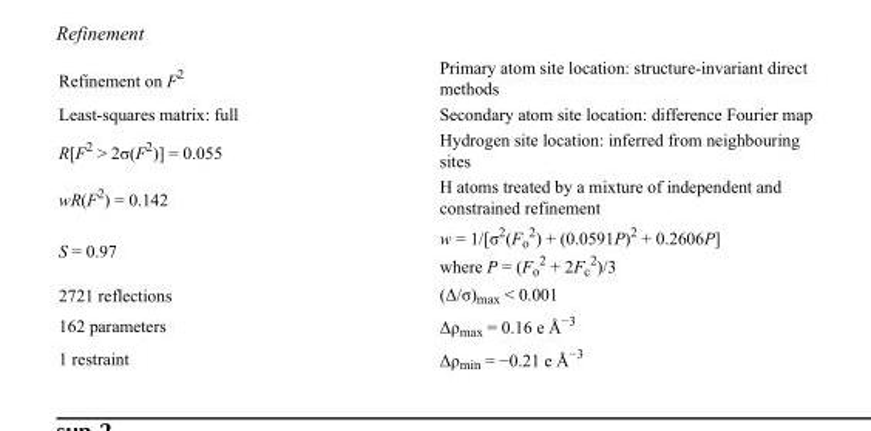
<table><tbody><tr><td>Refinement on F<sup>2</sup></td><td>Primary atom site location: structure-invariant direct methods</td></tr><tr><td>Least-squares matrix: full</td><td>Secondary atom site location: difference Fourier map</td></tr><tr><td>R[F<sup>2</sup> &gt; 2σ(F<sup>2</sup>)] = 0.055</td><td>Hydrogen site location: inferred from neighbouring sites</td></tr><tr><td>wR(F<sup>2</sup>) = 0.142</td><td>H atoms treated by a mixture of independent and constrained refinement</td></tr><tr><td>S = 0.97</td><td>w = 1/[σ<sup>2</sup>(F<sub>o</sub> <sup>2</sup>) + (0.0591P)<sup>2</sup> + 0.2606P] where P = (F<sub>o</sub> <sup>2</sup> + 2F<sub>c</sub> <sup>2</sup>)/3</td></tr><tr><td>2721 reflections</td><td>(Δ/σ)<sub>max</sub> &lt; 0.001</td></tr><tr><td>162 parameters</td><td>Δρ<sub>max</sub> = 0.16 e Å<sup>−3</sup></td></tr><tr><td>1 restraint</td><td>Δρ<sub>min</sub> = −0.21 e Å<sup>−3</sup></td></tr></tbody></table>